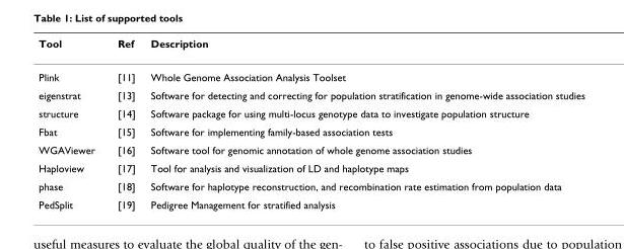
<table><thead><tr><td>Tool</td><td>Ref</td><td>Description</td></tr></thead><tbody><tr><td>Plink</td><td>[11]</td><td>Whole Genome Association Analysis Toolset</td></tr><tr><td>eigenstrat</td><td>[13]</td><td>Software for detecting and correcting for population stratification in genome-wide association studies</td></tr><tr><td>structure</td><td>[14]</td><td>Software package for using multi-locus genotype data to investigate population structure</td></tr><tr><td>Fbat</td><td>[15]</td><td>Software for implementing family-based association tests</td></tr><tr><td>WGAViewer</td><td>[16]</td><td>Software tool for genomic annotation of whole genome association studies</td></tr><tr><td>Haploview</td><td>[17]</td><td>Tool for analysis and visualization of LD and haplotype maps</td></tr><tr><td>phase</td><td>[18]</td><td>Software for haplotype reconstruction, and recombination rate estimation from population data</td></tr><tr><td>PedSplit</td><td>[19]</td><td>Pedigree Management for stratified analysis</td></tr></tbody></table>